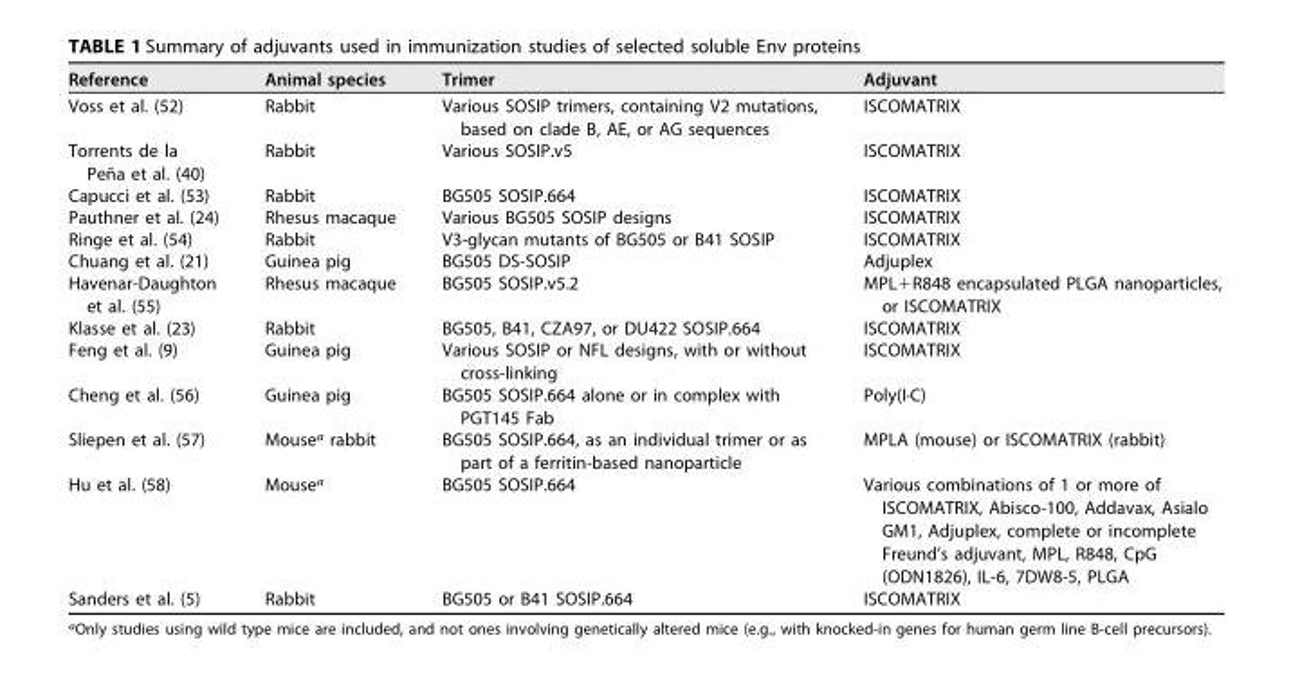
<table><thead><tr><td>Reference</td><td>Animal species</td><td>Trimer</td><td>Adjuvant</td></tr></thead><tbody><tr><td>Voss et al. (52)</td><td>Rabbit</td><td>Various SOSIP trimers, containing V2 mutations, based on clade B, AE, or AG sequences</td><td>ISCOMATRIX</td></tr><tr><td>Torrents de la Peña et al. (40)</td><td>Rabbit</td><td>Various SOSIP.v5</td><td>ISCOMATRIX</td></tr><tr><td>Capucci et al. (53)</td><td>Rabbit</td><td>BG505 SOSIP.664</td><td>ISCOMATRIX</td></tr><tr><td>Pauthner et al. (24)</td><td>Rhesus macaque</td><td>Various BG505 SOSIP designs</td><td>ISCOMATRIX</td></tr><tr><td>Ringe et al. (54)</td><td>Rabbit</td><td>V3-glycan mutants of BG505 or B41 SOSIP</td><td>ISCOMATRIX</td></tr><tr><td>Chuang et al. (21)</td><td>Guinea pig</td><td>BG505 DS-SOSIP</td><td>Adjuplex</td></tr><tr><td>Havenar-Daughton et al. (55)</td><td>Rhesus macaque</td><td>BG505 SOSIP.v5.2</td><td>MPL+R848 encapsulated PLGA nanoparticles, or ISCOMATRIX</td></tr><tr><td>Klasse et al. (23)</td><td>Rabbit</td><td>BG505, B41, CZA97, or DU422 SOSIP.664</td><td>ISCOMATRIX</td></tr><tr><td>Feng et al. (9)</td><td>Guinea pig</td><td>Various SOSIP or NFL designs, with or without cross-linking</td><td>ISCOMATRIX</td></tr><tr><td>Cheng et al. (56)</td><td>Guinea pig</td><td>BG505 SOSIP.664 alone or in complex with PGT145 Fab</td><td>Poly(I·C)</td></tr><tr><td>Sliepen et al. (57)</td><td>Mouse<sup>a</sup> rabbit</td><td>BG505 SOSIP.664, as an individual trimer or as part of a ferritin-based nanoparticle</td><td>MPLA (mouse) or ISCOMATRIX (rabbit)</td></tr><tr><td>Hu et al. (58)</td><td>Mouse<sup>a</sup></td><td>BG505 SOSIP.664</td><td>Various combinations of 1 or more of ISCOMATRIX, Abisco-100, Addavax, Asialo GM1, Adjuplex, complete or incomplete Freund’s adjuvant, MPL, R848, CpG (ODN1826), IL-6, 7DW8-5, PLGA</td></tr><tr><td>Sanders et al. (5)</td><td>Rabbit</td><td>BG505 or B41 SOSIP.664</td><td>ISCOMATRIX</td></tr></tbody></table>